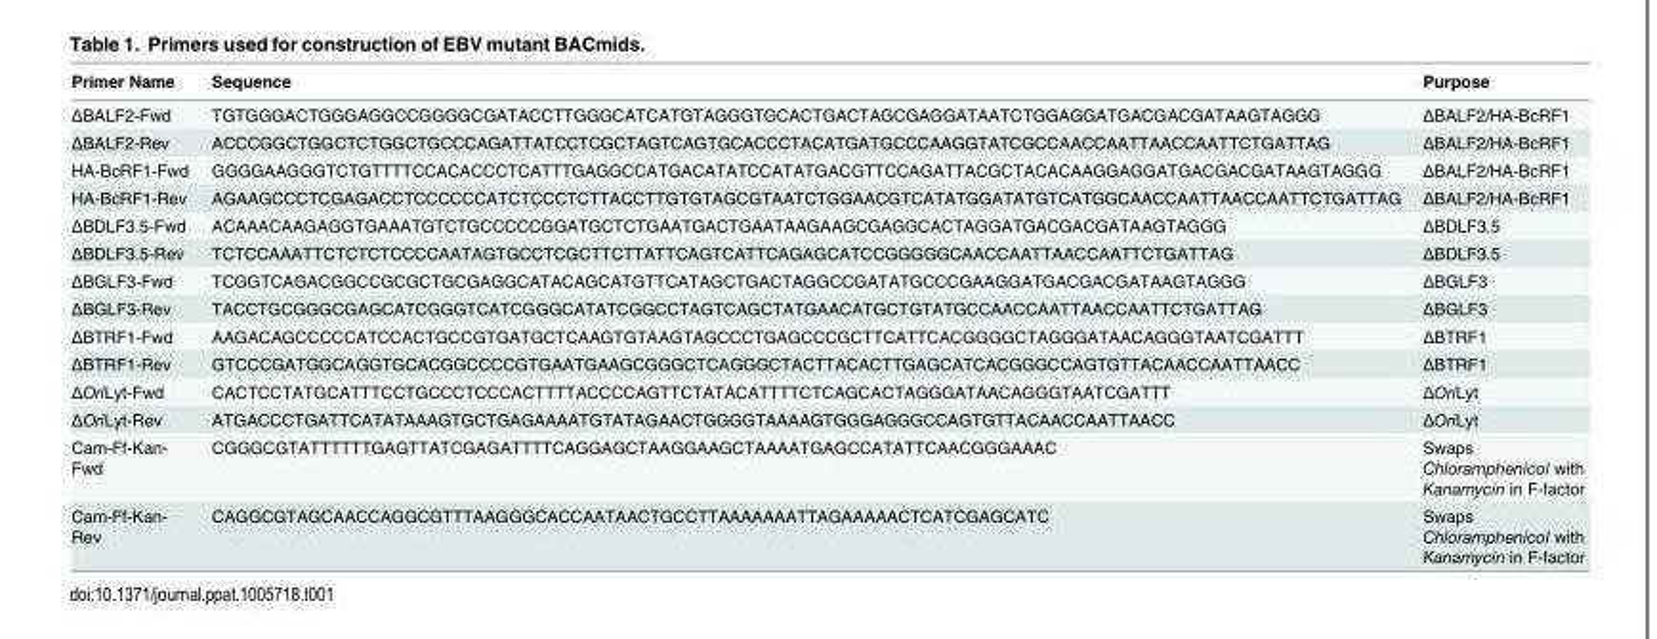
<table><thead><tr><td>Primer Name</td><td>Sequence</td><td>Purpose</td></tr></thead><tbody><tr><td>ΔBALF2-Fwd</td><td>TGTGGGACTGGGAGGCCGGGGCGATACCTTGGGCATCATGTAGGGTGCACTGACTAGCGAGGATAATCTGGAGGATGACGACGATAAGTAGGG</td><td>ΔBALF2/HA-BcRF1</td></tr><tr><td>ΔBALF2-Rev</td><td>ACCCGGCTGGCTCTGGCTGCCCAGATTATCCTCGCTAGTCAGTGCACCCTACATGATGCCCAAGGTATCGCCAACCAATTAACCAATTCTGATTAG</td><td>ΔBALF2/HA-BcRF1</td></tr><tr><td>HA-BcRF1-Fwd</td><td>GGGGAAGGGTCTGTTTTCCACACCCTCATTTGAGGCCATGACATATCCATATGACGTTCCAGATTACGCTACACAAGGAGGATGACGACGATAAGTAGGG</td><td>ΔBALF2/HA-BcRF1</td></tr><tr><td>HA-BcRF1-Rev</td><td>AGAAGCCCTCGAGACCTCCCCCCATCTCCCTCTTACCTTGTGTAGCGTAATCTGGAACGTCATATGGATATGTCATGGCAACCAATTAACCAATTCTGATTAG</td><td>ΔBALF2/HA-BcRF1</td></tr><tr><td>ΔBDLF3.5-Fwd</td><td>ACAAACAAGAGGTGAAATGTCTGCCCCCGGATGCTCTGAATGACTGAATAAGAAGCGAGGCACTAGGATGACGACGATAAGTAGGG</td><td>ΔBDLF3.5</td></tr><tr><td>ΔBDLF3.5-Rev</td><td>TCTCCAAATTCTCTCTCCCCAATAGTGCCTCGCTTCTTATTCAGTCATTCAGAGCATCCGGGGGCAACCAATTAACCAATTCTGATTAG</td><td>ΔBDLF3.5</td></tr><tr><td>ΔBGLF3-Fwd</td><td>TCGGTCAGACGGCCGCGCTGCGAGGCATACAGCATGTTCATAGCTGACTAGGCCGATATGCCCGAAGGATGACGACGATAAGTAGGG</td><td>ΔBGLF3</td></tr><tr><td>ΔBGLF3-Rev</td><td>TACCTGCGGGCGAGCATCGGGTCATCGGGCATATCGGCCTAGTCAGCTATGAACATGCTGTATGCCAACCAATTAACCAATTCTGATTAG</td><td>ΔBGLF3</td></tr><tr><td>ΔBTRF1-Fwd</td><td>AAGACAGCCCCCATCCACTGCCGTGATGCTCAAGTGTAAGTAGCCCTGAGCCCGCTTCATTCACGGGGCTAGGGATAACAGGGTAATCGATTT</td><td>ΔBTRF1</td></tr><tr><td>ΔBTRF1-Rev</td><td>GTCCCGATGGCAGGTGCACGGCCCCGTGAATGAAGCGGGCTCAGGGCTACTTACACTTGAGCATCACGGGCCAGTGTTACAACCAATTAACC</td><td>ΔBTRF1</td></tr><tr><td>ΔOriLyt-Fwd</td><td>CACTCCTATGCATTTCCTGCCCTCCCACTTTTACCCCAGTTCTATACATTTTCTCAGCACTAGGGATAACAGGGTAATCGATTT</td><td>ΔOriLyt</td></tr><tr><td>ΔOriLyt-Rev</td><td>ATGACCCTGATTCATATAAAGTGCTGAGAAAATGTATAGAACTGGGGTAAAAGTGGGAGGGCCAGTGTTACAACCAATTAACC</td><td>ΔOriLyt</td></tr><tr><td>Cam-Ff-Kan- Fwd</td><td>CGGGCGTATTTTTTGAGTTATCGAGATTTTCAGGAGCTAAGGAAGCTAAAATGAGCCATATTCAACGGGAAAC</td><td>Swaps Chloramphenicol with Kanamycin in F-factor</td></tr><tr><td>Cam-Ff-Kan- Rev</td><td>CAGGCGTAGCAACCAGGCGTTTAAGGGCACCAATAACTGCCTTAAAAAAATTAGAAAAACTCATCGAGCATC</td><td>Swaps Chloramphenicol with Kanamycin in F-factor</td></tr></tbody></table>